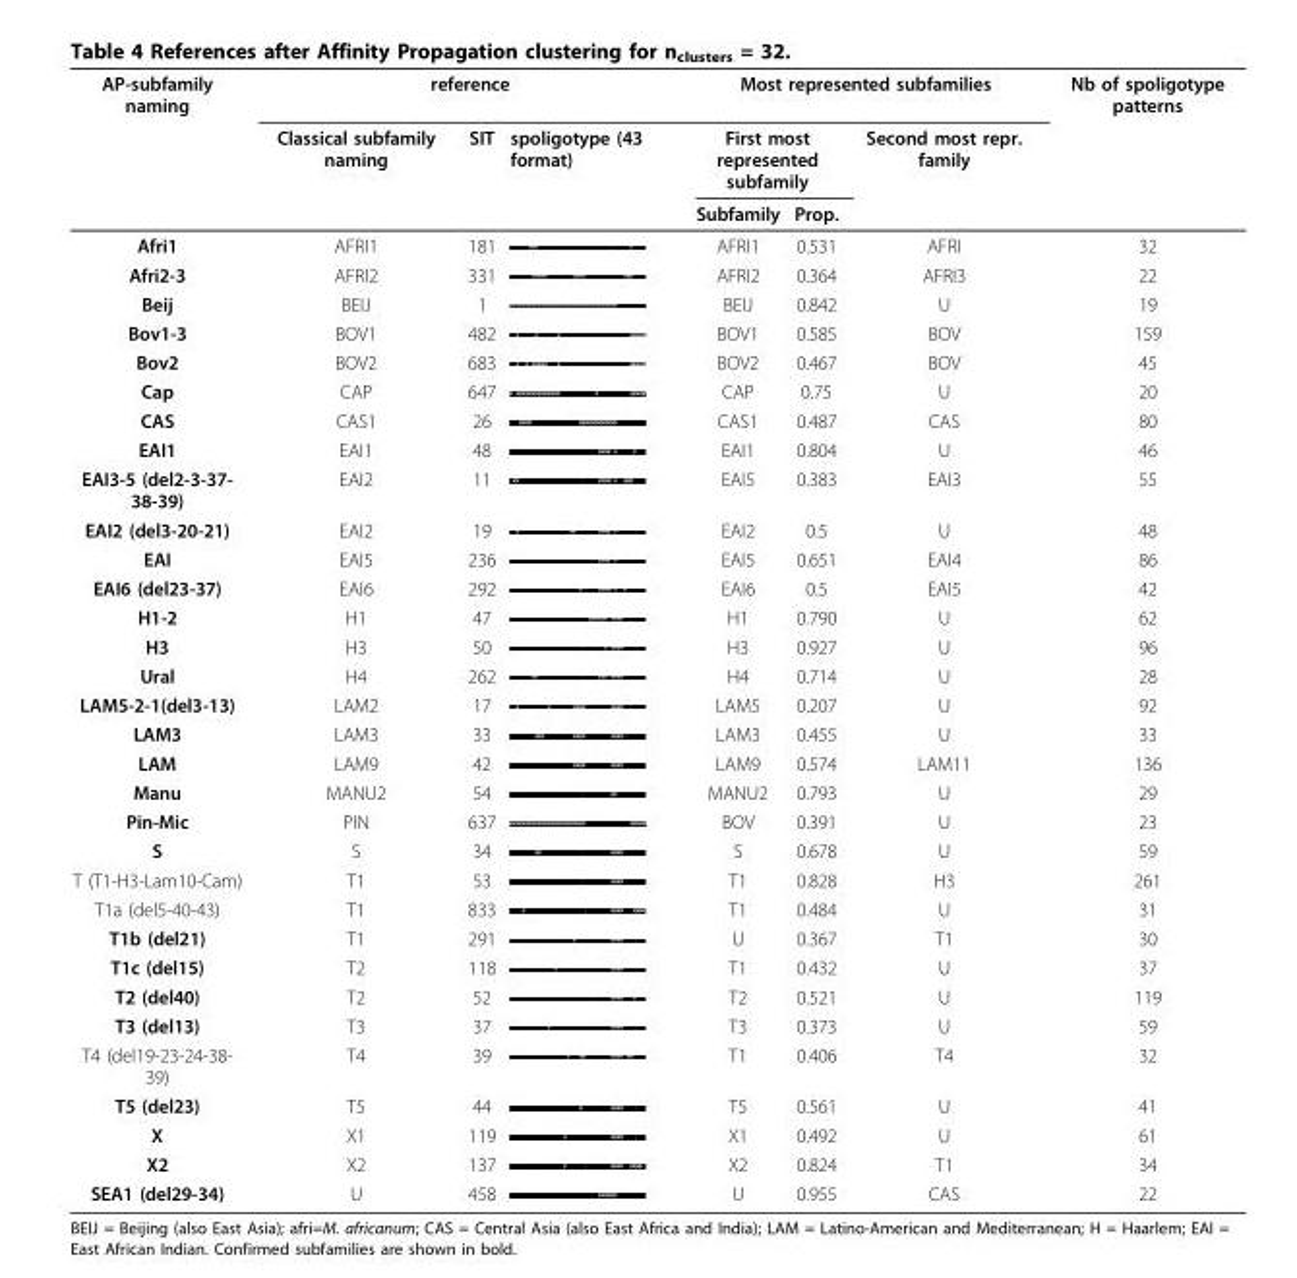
<table><thead><tr><td rowspan="3">AP-subfamily naming</td><td colspan="3">reference</td><td colspan="3">Most represented subfamilies</td><td rowspan="3">Nb of spoligotype patterns</td></tr><tr><td rowspan="2">Classical subfamily naming</td><td rowspan="2">SIT</td><td rowspan="2">spoligotype (43 format)</td><td colspan="2">First most represented subfamily</td><td rowspan="2">Second most repr. family</td></tr><tr><td>Subfamily</td><td>Prop.</td></tr></thead><tbody><tr><td>Afri1</td><td>AFRI1</td><td>181</td><td></td><td>AFRI1</td><td>0.531</td><td>AFRI</td><td>32</td></tr><tr><td>Afri2-3</td><td>AFRI2</td><td>331</td><td></td><td>AFRI2</td><td>0.364</td><td>AFRI3</td><td>22</td></tr><tr><td>Beij</td><td>BEIJ</td><td>1</td><td></td><td>BEIJ</td><td>0.842</td><td>U</td><td>19</td></tr><tr><td>Bov1-3</td><td>BOV1</td><td>482</td><td></td><td>BOV1</td><td>0.585</td><td>BOV</td><td>159</td></tr><tr><td>Bov2</td><td>BOV2</td><td>683</td><td></td><td>BOV2</td><td>0.467</td><td>BOV</td><td>45</td></tr><tr><td>Cap</td><td>CAP</td><td>647</td><td></td><td>CAP</td><td>0.75</td><td>U</td><td>20</td></tr><tr><td>CAS</td><td>CAS1</td><td>26</td><td></td><td>CAS1</td><td>0.487</td><td>CAS</td><td>80</td></tr><tr><td>EAI1</td><td>EAI1</td><td>48</td><td></td><td>EAI1</td><td>0.804</td><td>U</td><td>46</td></tr><tr><td>EAI3-5 (del2-3-37- 38-39)</td><td>EAI2</td><td>11</td><td></td><td>EAI5</td><td>0.383</td><td>EAI3</td><td>55</td></tr><tr><td>EAI2 (del3-20-21)</td><td>EAI2</td><td>19</td><td></td><td>EAI2</td><td>0.5</td><td>U</td><td>48</td></tr><tr><td>EAI</td><td>EAI5</td><td>236</td><td></td><td>EAI5</td><td>0.651</td><td>EAI4</td><td>86</td></tr><tr><td>EAI6 (del23-37)</td><td>EAI6</td><td>292</td><td></td><td>EAI6</td><td>0.5</td><td>EAI5</td><td>42</td></tr><tr><td>H1-2</td><td>H1</td><td>47</td><td></td><td>H1</td><td>0.790</td><td>U</td><td>62</td></tr><tr><td>H3</td><td>H3</td><td>50</td><td></td><td>H3</td><td>0.927</td><td>U</td><td>96</td></tr><tr><td>Ural</td><td>H4</td><td>262</td><td></td><td>H4</td><td>0.714</td><td>U</td><td>28</td></tr><tr><td>LAM5-2-1(del3-13)</td><td>LAM2</td><td>17</td><td></td><td>LAM5</td><td>0.207</td><td>U</td><td>92</td></tr><tr><td>LAM3</td><td>LAM3</td><td>33</td><td></td><td>LAM3</td><td>0.455</td><td>U</td><td>33</td></tr><tr><td>LAM</td><td>LAM9</td><td>42</td><td></td><td>LAM9</td><td>0.574</td><td>LAM11</td><td>136</td></tr><tr><td>Manu</td><td>MANU2</td><td>54</td><td></td><td>MANU2</td><td>0.793</td><td>U</td><td>29</td></tr><tr><td>Pin-Mic</td><td>PIN</td><td>637</td><td></td><td>BOV</td><td>0.391</td><td>U</td><td>23</td></tr><tr><td>S</td><td>S</td><td>34</td><td></td><td>S</td><td>0.678</td><td>U</td><td>59</td></tr><tr><td>T (T1-H3-Lam10-Cam)</td><td>T1</td><td>53</td><td></td><td>T1</td><td>0.828</td><td>H3</td><td>261</td></tr><tr><td>T1a (del5-40-43)</td><td>T1</td><td>833</td><td></td><td>T1</td><td>0.484</td><td>U</td><td>31</td></tr><tr><td>T1b (del21)</td><td>T1</td><td>291</td><td></td><td>U</td><td>0.367</td><td>T1</td><td>30</td></tr><tr><td>T1c (del15)</td><td>T2</td><td>118</td><td></td><td>T1</td><td>0.432</td><td>U</td><td>37</td></tr><tr><td>T2 (del40)</td><td>T2</td><td>52</td><td></td><td>T2</td><td>0.521</td><td>U</td><td>119</td></tr><tr><td>T3 (del13)</td><td>T3</td><td>37</td><td></td><td>T3</td><td>0.373</td><td>U</td><td>59</td></tr><tr><td>T4 (del19-23-24-38- 39)</td><td>T4</td><td>39</td><td></td><td>T1</td><td>0.406</td><td>T4</td><td>32</td></tr><tr><td>T5 (del23)</td><td>T5</td><td>44</td><td></td><td>T5</td><td>0.561</td><td>U</td><td>41</td></tr><tr><td>X</td><td>X1</td><td>119</td><td></td><td>X1</td><td>0.492</td><td>U</td><td>61</td></tr><tr><td>X2</td><td>X2</td><td>137</td><td></td><td>X2</td><td>0.824</td><td>T1</td><td>34</td></tr><tr><td>SEA1 (del29-34)</td><td>U</td><td>458</td><td></td><td>U</td><td>0.955</td><td>CAS</td><td>22</td></tr></tbody></table>